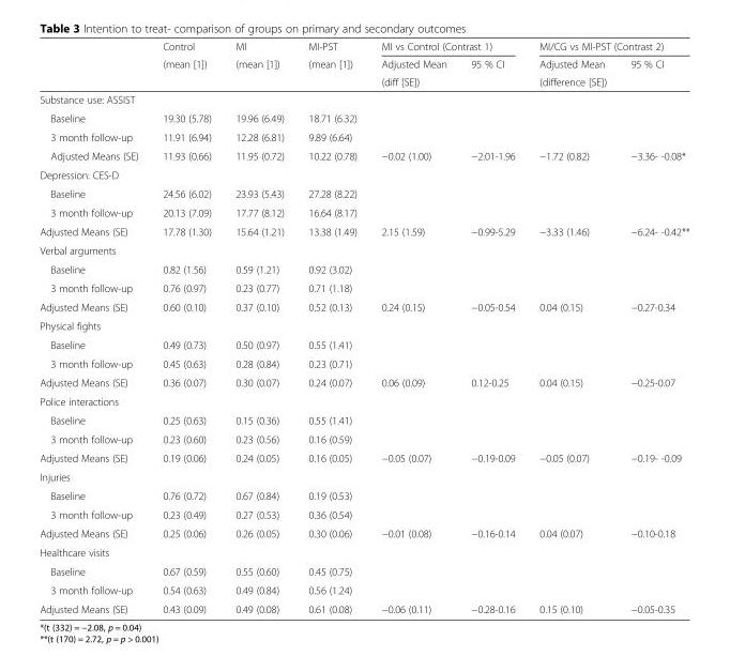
<table><thead><tr><td rowspan="3"></td><td rowspan="3">Control (mean [1])</td><td rowspan="3">MI (mean [1])</td><td rowspan="3">MI-PST (mean [1])</td><td colspan="2">MI vs Control (Contrast 1)</td><td colspan="2">MI/CG vs MI-PST (Contrast 2)</td></tr><tr><td rowspan="2">Adjusted Mean (diff [SE])</td><td rowspan="2">95 % CI</td><td rowspan="2">Adjusted Mean (difference [SE])</td><td rowspan="2">95 % CI</td></tr><tr></tr></thead><tbody><tr><td colspan="8">Substance use: ASSIST</td></tr><tr><td>Baseline</td><td>19.30 (5.78)</td><td>19.96 (6.49)</td><td>18.71 (6.32)</td><td></td><td></td><td></td><td></td></tr><tr><td>3 month follow-up</td><td>11.91 (6.94)</td><td>12.28 (6.81)</td><td>9.89 (6.64)</td><td></td><td></td><td></td><td></td></tr><tr><td>Adjusted Means (SE)</td><td>11.93 (0.66)</td><td>11.95 (0.72)</td><td>10.22 (0.78)</td><td>−0.02 (1.00)</td><td>−2.01-1.96</td><td>−1.72 (0.82)</td><td>−3.36- -0.08*</td></tr><tr><td colspan="8">Depression: CES-D</td></tr><tr><td>Baseline</td><td>24.56 (6.02)</td><td>23.93 (5.43)</td><td>27.28 (8.22)</td><td></td><td></td><td></td><td></td></tr><tr><td>3 month follow-up</td><td>20.13 (7.09)</td><td>17.77 (8.12)</td><td>16.64 (8.17)</td><td></td><td></td><td></td><td></td></tr><tr><td>Adjusted Means (SE)</td><td>17.78 (1.30)</td><td>15.64 (1.21)</td><td>13.38 (1.49)</td><td>2.15 (1.59)</td><td>−0.99-5.29</td><td>−3.33 (1.46)</td><td>−6.24- -0.42**</td></tr><tr><td colspan="8">Verbal arguments</td></tr><tr><td>Baseline</td><td>0.82 (1.56)</td><td>0.59 (1.21)</td><td>0.92 (3.02)</td><td></td><td></td><td></td><td></td></tr><tr><td>3 month follow-up</td><td>0.76 (0.97)</td><td>0.23 (0.77)</td><td>0.71 (1.18)</td><td></td><td></td><td></td><td></td></tr><tr><td>Adjusted Means (SE)</td><td>0.60 (0.10)</td><td>0.37 (0.10)</td><td>0.52 (0.13)</td><td>0.24 (0.15)</td><td>−0.05-0.54</td><td>0.04 (0.15)</td><td>−0.27-0.34</td></tr><tr><td colspan="8">Physical fights</td></tr><tr><td>Baseline</td><td>0.49 (0.73)</td><td>0.50 (0.97)</td><td>0.55 (1.41)</td><td></td><td></td><td></td><td></td></tr><tr><td>3 month follow-up</td><td>0.45 (0.63)</td><td>0.28 (0.84)</td><td>0.23 (0.71)</td><td></td><td></td><td></td><td></td></tr><tr><td>Adjusted Means (SE)</td><td>0.36 (0.07)</td><td>0.30 (0.07)</td><td>0.24 (0.07)</td><td>0.06 (0.09)</td><td>0.12-0.25</td><td>0.04 (0.15)</td><td>−0.25-0.07</td></tr><tr><td colspan="8">Police interactions</td></tr><tr><td>Baseline</td><td>0.25 (0.63)</td><td>0.15 (0.36)</td><td>0.55 (1.41)</td><td></td><td></td><td></td><td></td></tr><tr><td>3 month follow-up</td><td>0.23 (0.60)</td><td>0.23 (0.56)</td><td>0.16 (0.59)</td><td></td><td></td><td></td><td></td></tr><tr><td>Adjusted Means (SE)</td><td>0.19 (0.06)</td><td>0.24 (0.05)</td><td>0.16 (0.05)</td><td>−0.05 (0.07)</td><td>−0.19-0.09</td><td>−0.05 (0.07)</td><td>−0.19- -0.09</td></tr><tr><td colspan="8">Injuries</td></tr><tr><td>Baseline</td><td>0.76 (0.72)</td><td>0.67 (0.84)</td><td>0.19 (0.53)</td><td></td><td></td><td></td><td></td></tr><tr><td>3 month follow-up</td><td>0.23 (0.49)</td><td>0.27 (0.53)</td><td>0.36 (0.54)</td><td></td><td></td><td></td><td></td></tr><tr><td>Adjusted Means (SE)</td><td>0.25 (0.06)</td><td>0.26 (0.05)</td><td>0.30 (0.06)</td><td>−0.01 (0.08)</td><td>−0.16-0.14</td><td>0.04 (0.07)</td><td>−0.10-0.18</td></tr><tr><td colspan="8">Healthcare visits</td></tr><tr><td>Baseline</td><td>0.67 (0.59)</td><td>0.55 (0.60)</td><td>0.45 (0.75)</td><td></td><td></td><td></td><td></td></tr><tr><td>3 month follow-up</td><td>0.54 (0.63)</td><td>0.49 (0.84)</td><td>0.56 (1.24)</td><td></td><td></td><td></td><td></td></tr><tr><td>Adjusted Means (SE)</td><td>0.43 (0.09)</td><td>0.49 (0.08)</td><td>0.61 (0.08)</td><td>−0.06 (0.11)</td><td>−0.28-0.16</td><td>0.15 (0.10)</td><td>−0.05-0.35</td></tr></tbody></table>